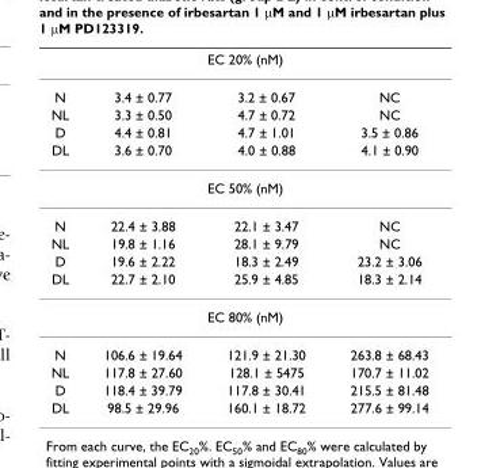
<table><thead><tr><td colspan="4">EC 20% (nM)</td></tr><tr><td>N</td><td>3.4 ± 0.77</td><td>3.2 ± 0.67</td><td>NC</td></tr></thead><tbody><tr><td>NL</td><td>3.3 ± 0.50</td><td>4.7 ± 0.72</td><td>NC</td></tr><tr><td>D</td><td>4.4 ± 0.81</td><td>4.7 ± 1.01</td><td>3.5 ± 0.86</td></tr><tr><td>DL</td><td>3.6 ± 0.70</td><td>4.0 ± 0.88</td><td>4.1 ± 0.90</td></tr><tr><td colspan="4">EC 50% (nM)</td></tr><tr><td>N</td><td>22.4 ± 3.88</td><td>22.1 ± 3.47</td><td>NC</td></tr><tr><td>NL</td><td>19.8 ± 1.16</td><td>28.1 ± 9.79</td><td>NC</td></tr><tr><td>D</td><td>19.6 ± 2.22</td><td>18.3 ± 2.49</td><td>23.2 ± 3.06</td></tr><tr><td>DL</td><td>22.7 ± 2.10</td><td>25.9 ± 4.85</td><td>18.3 ± 2.14</td></tr><tr><td colspan="4">EC 80% (nM)</td></tr><tr><td>N</td><td>106.6 ± 19.64</td><td>121.9 ± 21.30</td><td>263.8 ± 68.43</td></tr><tr><td>NL</td><td>117.8 ± 27.60</td><td>128.1 ± 5475</td><td>170.7 ± 11.02</td></tr><tr><td>D</td><td>118.4 ± 39.79</td><td>117.8 ± 30.41</td><td>215.5 ± 81.48</td></tr><tr><td>DL</td><td>98.5 ± 29.96</td><td>160.1 ± 18.72</td><td>277.6 ± 99.14</td></tr></tbody></table>